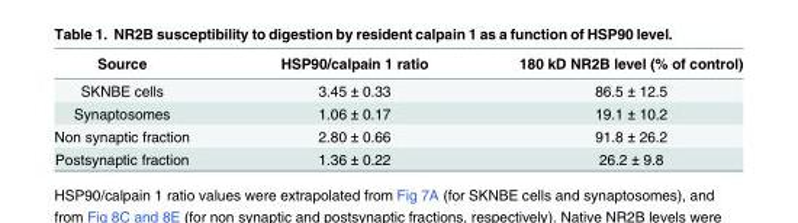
<table><thead><tr><td>Source</td><td>HSP90/calpain 1 ratio</td><td>180 kD NR2B level (% of control)</td></tr></thead><tbody><tr><td>SKNBE cells</td><td>3.45 ± 0.33</td><td>86.5 ± 12.5</td></tr><tr><td>Synaptosomes</td><td>1.06 ± 0.17</td><td>19.1 ± 10.2</td></tr><tr><td>Non synaptic fraction</td><td>2.80 ± 0.66</td><td>91.8 ± 26.2</td></tr><tr><td>Postsynaptic fraction</td><td>1.36 ± 0.22</td><td>26.2 ± 9.8</td></tr></tbody></table>